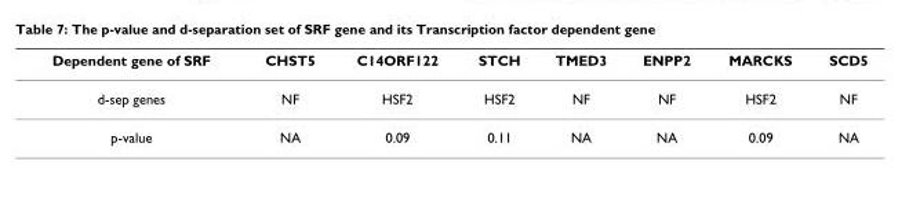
<table><thead><tr><td>Dependent gene of SRF</td><td>CHST5</td><td>C14ORF122</td><td>STCH</td><td>TMED3</td><td>ENPP2</td><td>MARCKS</td><td>SCD5</td></tr></thead><tbody><tr><td>d-sep genes</td><td>NF</td><td>HSF2</td><td>HSF2</td><td>NF</td><td>NF</td><td>HSF2</td><td>NF</td></tr><tr><td>p-value</td><td>NA</td><td>0.09</td><td>0.11</td><td>NA</td><td>NA</td><td>0.09</td><td>NA</td></tr></tbody></table>